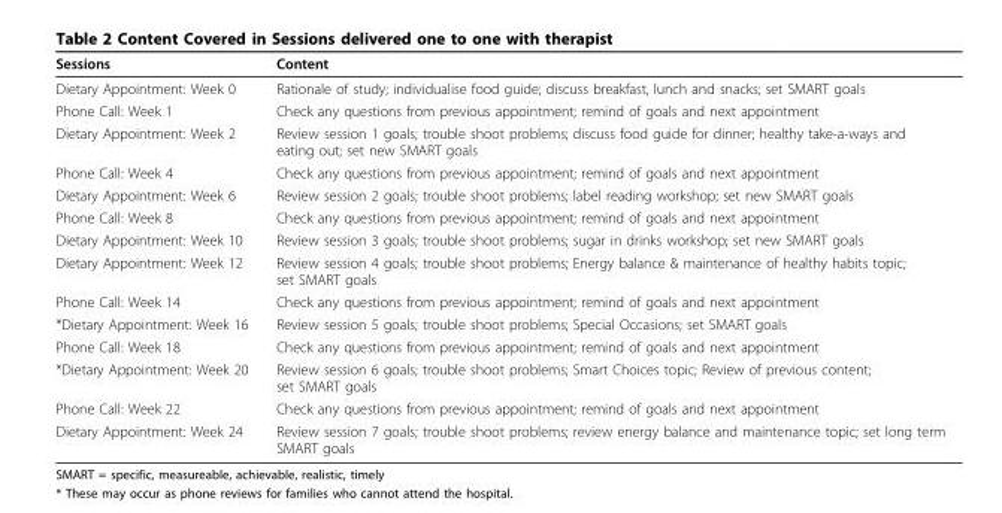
<table><thead><tr><td>Sessions</td><td>Content</td></tr></thead><tbody><tr><td>Dietary Appointment: Week 0</td><td>Rationale of study; individualise food guide; discuss breakfast, lunch and snacks; set SMART goals</td></tr><tr><td>Phone Call: Week 1</td><td>Check any questions from previous appointment; remind of goals and next appointment</td></tr><tr><td>Dietary Appointment: Week 2</td><td>Review session 1 goals; trouble shoot problems; discuss food guide for dinner; healthy take-a-ways and eating out; set new SMART goals</td></tr><tr><td>Phone Call: Week 4</td><td>Check any questions from previous appointment; remind of goals and next appointment</td></tr><tr><td>Dietary Appointment: Week 6</td><td>Review session 2 goals; trouble shoot problems; label reading workshop; set new SMART goals</td></tr><tr><td>Phone Call: Week 8</td><td>Check any questions from previous appointment; remind of goals and next appointment</td></tr><tr><td>Dietary Appointment: Week 10</td><td>Review session 3 goals; trouble shoot problems; sugar in drinks workshop; set new SMART goals</td></tr><tr><td>Dietary Appointment: Week 12</td><td>Review session 4 goals; trouble shoot problems; Energy balance &amp; maintenance of healthy habits topic; set SMART goals</td></tr><tr><td>Phone Call: Week 14</td><td>Check any questions from previous appointment; remind of goals and next appointment</td></tr><tr><td>*Dietary Appointment: Week 16</td><td>Review session 5 goals; trouble shoot problems; Special Occasions; set SMART goals</td></tr><tr><td>Phone Call: Week 18</td><td>Check any questions from previous appointment; remind of goals and next appointment</td></tr><tr><td>*Dietary Appointment: Week 20</td><td>Review session 6 goals; trouble shoot problems; Smart Choices topic; Review of previous content; set SMART goals</td></tr><tr><td>Phone Call: Week 22</td><td>Check any questions from previous appointment; remind of goals and next appointment</td></tr><tr><td>Dietary Appointment: Week 24</td><td>Review session 7 goals; trouble shoot problems; review energy balance and maintenance topic; set long term SMART goals</td></tr></tbody></table>